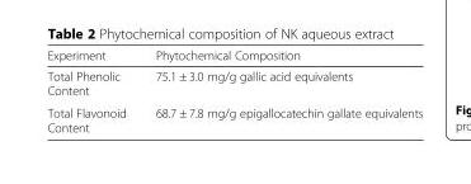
<table><thead><tr><td>Experiment</td><td>Phytochemical Composition</td></tr></thead><tbody><tr><td>Total Phenolic Content</td><td>75.1 ± 3.0 mg/g gallic acid equivalents</td></tr><tr><td>Total Flavonoid Content</td><td>68.7 ± 7.8 mg/g epigallocatechin gallate equivalents</td></tr></tbody></table>